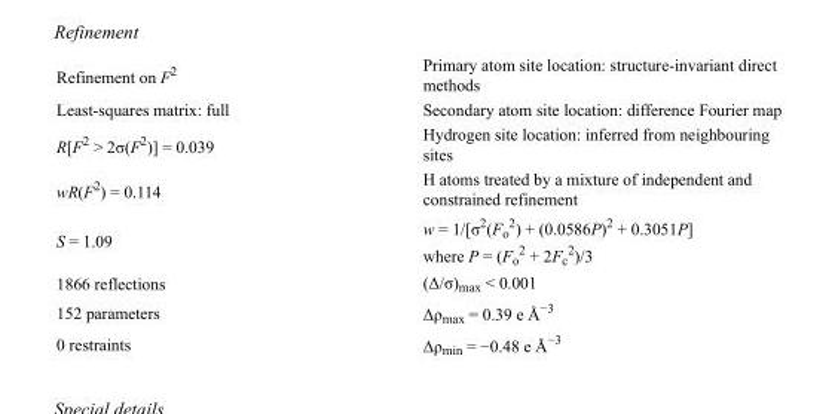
<table><tbody><tr><td>Refinement on F<sup>2</sup></td><td>Primary atom site location: structure-invariant direct methods</td></tr><tr><td>Least-squares matrix: full</td><td>Secondary atom site location: difference Fourier map</td></tr><tr><td>R[F<sup>2</sup> &gt; 2σ(F<sup>2</sup>)] = 0.039</td><td>Hydrogen site location: inferred from neighbouring sites</td></tr><tr><td>wR(F<sup>2</sup>) = 0.114</td><td>H atoms treated by a mixture of independent and constrained refinement</td></tr><tr><td>S = 1.09</td><td>w = 1/[σ<sup>2</sup>(F<sub>o</sub> <sup>2</sup>) + (0.0586P)<sup>2</sup> + 0.3051P] where P = (F<sub>o</sub> <sup>2</sup> + 2F<sub>c</sub> <sup>2</sup>)/3</td></tr><tr><td>1866 reflections</td><td>(Δ/σ)<sub>max</sub> &lt; 0.001</td></tr><tr><td>152 parameters</td><td>Δρ<sub>max</sub> = 0.39 e Å<sup>−3</sup></td></tr><tr><td>0 restraints</td><td>Δρ<sub>min</sub> = −0.48 e Å<sup>−3</sup></td></tr></tbody></table>